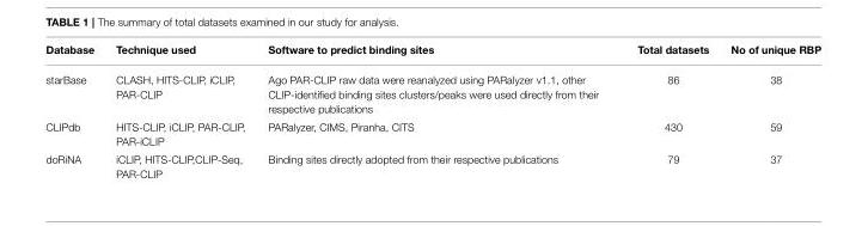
<table><thead><tr><td>Database</td><td>Technique used</td><td>Software to predict binding sites</td><td>Total datasets</td><td>No of unique RBP</td></tr></thead><tbody><tr><td>starBase</td><td>CLASH, HITS-CLIP, iCLIP, PAR-CLIP</td><td>Ago PAR-CLIP raw data were reanalyzed using PARalyzer v1.1, other CLIP-identified binding sites clusters/peaks were used directly from their respective publications</td><td>86</td><td>38</td></tr><tr><td>CLIPdb</td><td>HITS-CLIP, iCLIP, PAR-CLIP, PAR-iCLIP</td><td>PARalyzer, CIMS, Piranha, CITS</td><td>430</td><td>59</td></tr><tr><td>doRiNA</td><td>iCLIP, HITS-CLIP,CLIP-Seq, PAR-CLIP</td><td>Binding sites directly adopted from their respective publications</td><td>79</td><td>37</td></tr></tbody></table>